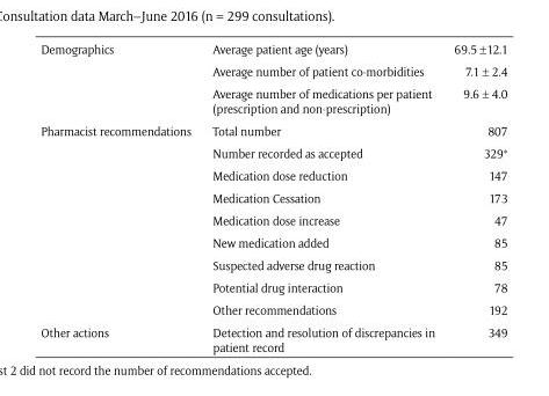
<table><tbody><tr><td rowspan="3">Demographics</td><td>Average patient age (years)</td><td>69.5 ±12.1</td></tr><tr><td>Average number of patient co-morbidities</td><td>7.1 ± 2.4</td></tr><tr><td>Average number of medications per patient (prescription and non-prescription)</td><td>9.6 ± 4.0</td></tr><tr><td rowspan="9">Pharmacist recommendations</td><td>Total number</td><td>807</td></tr><tr><td>Number recorded as accepted</td><td>329*</td></tr><tr><td>Medication dose reduction</td><td>147</td></tr><tr><td>Medication Cessation</td><td>173</td></tr><tr><td>Medication dose increase</td><td>47</td></tr><tr><td>New medication added</td><td>85</td></tr><tr><td>Suspected adverse drug reaction</td><td>85</td></tr><tr><td>Potential drug interaction</td><td>78</td></tr><tr><td>Other recommendations</td><td>192</td></tr><tr><td>Other actions</td><td>Detection and resolution of discrepancies in patient record</td><td>349</td></tr></tbody></table>